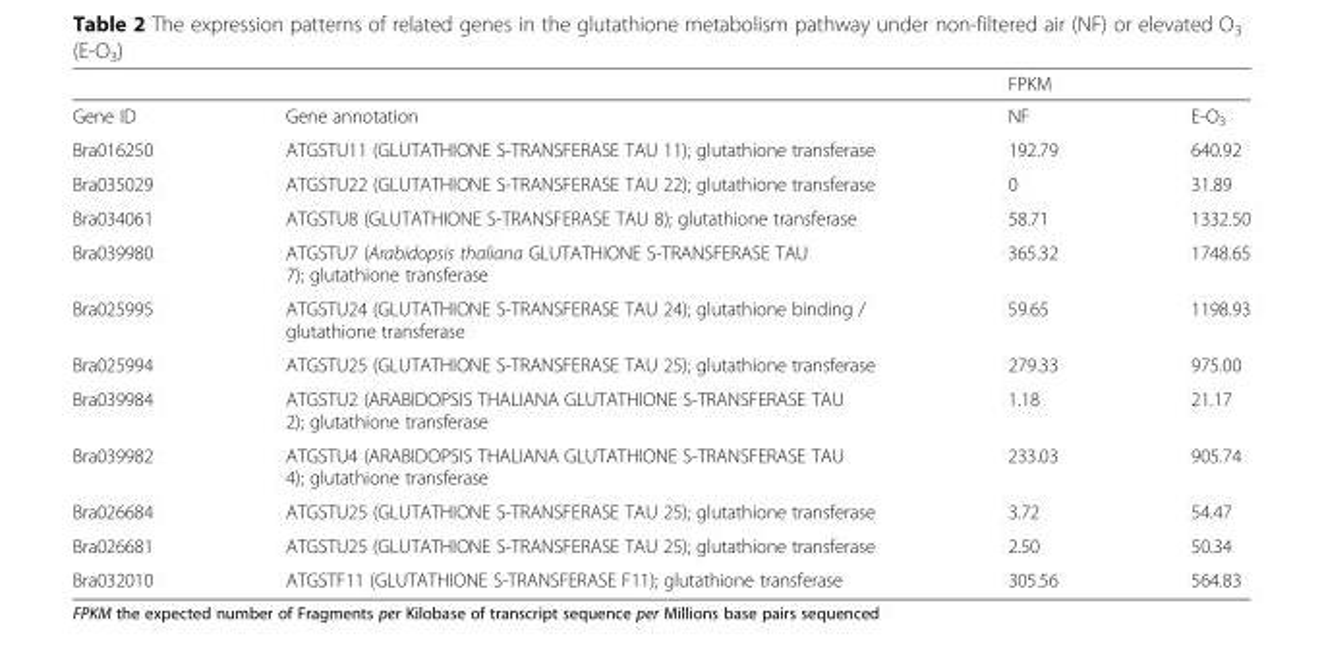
<table><thead><tr><td></td><td></td><td>FPKM</td><td></td></tr></thead><tbody><tr><td>Gene ID</td><td>Gene annotation</td><td>NF</td><td>E-O<sub>3</sub></td></tr><tr><td>Bra016250</td><td>ATGSTU11 (GLUTATHIONE S-TRANSFERASE TAU 11); glutathione transferase</td><td>192.79</td><td>640.92</td></tr><tr><td>Bra035029</td><td>ATGSTU22 (GLUTATHIONE S-TRANSFERASE TAU 22); glutathione transferase</td><td>0</td><td>31.89</td></tr><tr><td>Bra034061</td><td>ATGSTU8 (GLUTATHIONE S-TRANSFERASE TAU 8); glutathione transferase</td><td>58.71</td><td>1332.50</td></tr><tr><td>Bra039980</td><td>ATGSTU7 (Arabidopsis thaliana GLUTATHIONE S-TRANSFERASE TAU 7); glutathione transferase</td><td>365.32</td><td>1748.65</td></tr><tr><td>Bra025995</td><td>ATGSTU24 (GLUTATHIONE S-TRANSFERASE TAU 24); glutathione binding / glutathione transferase</td><td>59.65</td><td>1198.93</td></tr><tr><td>Bra025994</td><td>ATGSTU25 (GLUTATHIONE S-TRANSFERASE TAU 25); glutathione transferase</td><td>279.33</td><td>975.00</td></tr><tr><td>Bra039984</td><td>ATGSTU2 (ARABIDOPSIS THALIANA GLUTATHIONE S-TRANSFERASE TAU 2); glutathione transferase</td><td>1.18</td><td>21.17</td></tr><tr><td>Bra039982</td><td>ATGSTU4 (ARABIDOPSIS THALIANA GLUTATHIONE S-TRANSFERASE TAU 4); glutathione transferase</td><td>233.03</td><td>905.74</td></tr><tr><td>Bra026684</td><td>ATGSTU25 (GLUTATHIONE S-TRANSFERASE TAU 25); glutathione transferase</td><td>3.72</td><td>54.47</td></tr><tr><td>Bra026681</td><td>ATGSTU25 (GLUTATHIONE S-TRANSFERASE TAU 25); glutathione transferase</td><td>2.50</td><td>50.34</td></tr><tr><td>Bra032010</td><td>ATGSTF11 (GLUTATHIONE S-TRANSFERASE F11); glutathione transferase</td><td>305.56</td><td>564.83</td></tr></tbody></table>